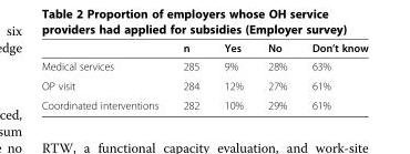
<table><thead><tr><td></td><td>n</td><td>Yes</td><td>No</td><td>Don’t know</td></tr></thead><tbody><tr><td>Medical services</td><td>285</td><td>9%</td><td>28%</td><td>63%</td></tr><tr><td>OP visit</td><td>284</td><td>12%</td><td>27%</td><td>61%</td></tr><tr><td>Coordinated interventions</td><td>282</td><td>10%</td><td>29%</td><td>61%</td></tr></tbody></table>